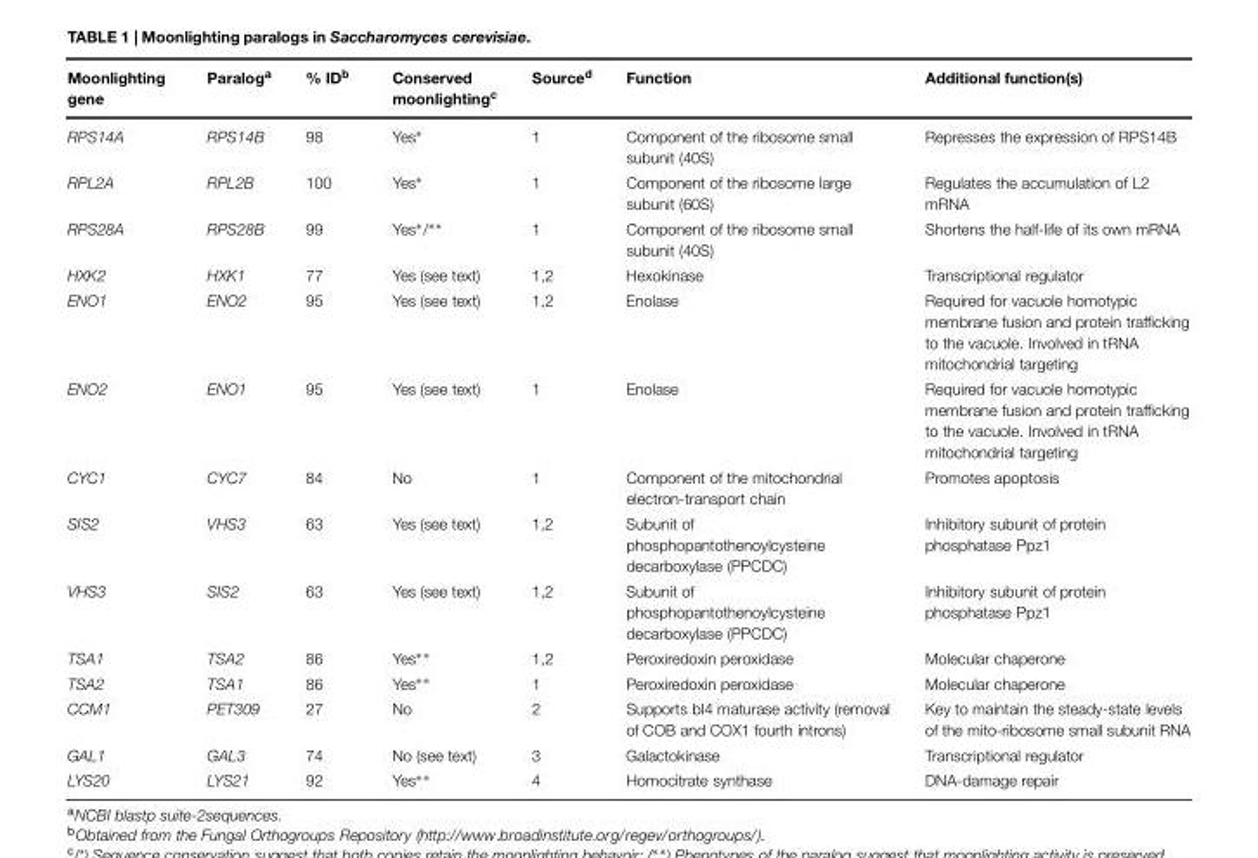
<table><thead><tr><td>Moonlighting gene</td><td>Paralog<sup>a</sup></td><td>% ID<sup>b</sup></td><td>Conserved moonlighting<sup>c</sup></td><td>Source<sup>d</sup></td><td>Function</td><td>Additional function(s)</td></tr></thead><tbody><tr><td>RPS14A</td><td>RPS14B</td><td>98</td><td>Yes∗</td><td>1</td><td>Component of the ribosome small subunit (40S)</td><td>Represses the expression of RPS14B</td></tr><tr><td>RPL2A</td><td>RPL2B</td><td>100</td><td>Yes∗</td><td>1</td><td>Component of the ribosome large subunit (60S)</td><td>Regulates the accumulation of L2 mRNA</td></tr><tr><td>RPS28A</td><td>RPS28B</td><td>99</td><td>Yes∗/∗∗</td><td>1</td><td>Component of the ribosome small subunit (40S)</td><td>Shortens the half-life of its own mRNA</td></tr><tr><td>HXK2</td><td>HXK1</td><td>77</td><td>Yes (see text)</td><td>1,2</td><td>Hexokinase</td><td>Transcriptional regulator</td></tr><tr><td>ENO1</td><td>ENO2</td><td>95</td><td>Yes (see text)</td><td>1,2</td><td>Enolase</td><td>Required for vacuole homotypic membrane fusion and protein trafficking to the vacuole. Involved in tRNA mitochondrial targeting</td></tr><tr><td>ENO2</td><td>ENO1</td><td>95</td><td>Yes (see text)</td><td>1</td><td>Enolase</td><td>Required for vacuole homotypic membrane fusion and protein trafficking to the vacuole. Involved in tRNA mitochondrial targeting</td></tr><tr><td>CYC1</td><td>CYC7</td><td>84</td><td>No</td><td>1</td><td>Component of the mitochondrial electron-transport chain</td><td>Promotes apoptosis</td></tr><tr><td>SIS2</td><td>VHS3</td><td>63</td><td>Yes (see text)</td><td>1,2</td><td>Subunit of phosphopantothenoylcysteine decarboxylase (PPCDC)</td><td>Inhibitory subunit of protein phosphatase Ppz1</td></tr><tr><td>VHS3</td><td>SIS2</td><td>63</td><td>Yes (see text)</td><td>1,2</td><td>Subunit of phosphopantothenoylcysteine decarboxylase (PPCDC)</td><td>Inhibitory subunit of protein phosphatase Ppz1</td></tr><tr><td>TSA1</td><td>TSA2</td><td>86</td><td>Yes∗∗</td><td>1,2</td><td>Peroxiredoxin peroxidase</td><td>Molecular chaperone</td></tr><tr><td>TSA2</td><td>TSA1</td><td>86</td><td>Yes∗∗</td><td>1</td><td>Peroxiredoxin peroxidase</td><td>Molecular chaperone</td></tr><tr><td>CCM1</td><td>PET309</td><td>27</td><td>No</td><td>2</td><td>Supports bI4 maturase activity (removal of COB and COX1 fourth introns)</td><td>Key to maintain the steady-state levels of the mito-ribosome small subunit RNA</td></tr><tr><td>GAL1</td><td>GAL3</td><td>74</td><td>No (see text)</td><td>3</td><td>Galactokinase</td><td>Transcriptional regulator</td></tr><tr><td>LYS20</td><td>LYS21</td><td>92</td><td>Yes∗∗</td><td>4</td><td>Homocitrate synthase</td><td>DNA-damage repair</td></tr></tbody></table>